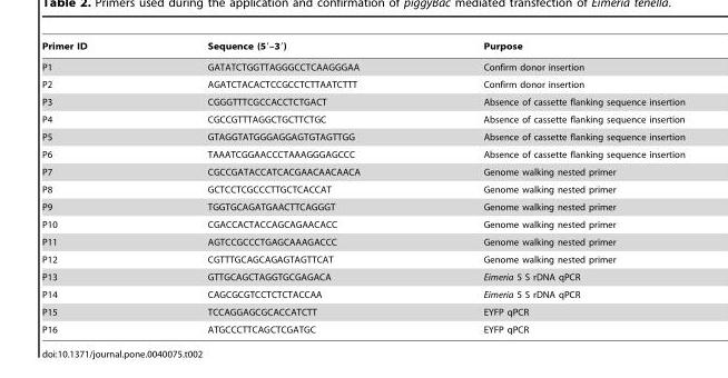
<table><thead><tr><td>Primer ID</td><td>Sequence (5′–3′)</td><td>Purpose</td></tr></thead><tbody><tr><td>P1</td><td>GATATCTGGTTAGGGCCTCAAGGGAA</td><td>Confirm donor insertion</td></tr><tr><td>P2</td><td>AGATCTACACTCCGCCTCTTAATCTTT</td><td>Confirm donor insertion</td></tr><tr><td>P3</td><td>CGGGTTTCGCCACCTCTGACT</td><td>Absence of cassette flanking sequence insertion</td></tr><tr><td>P4</td><td>CGCCGTTTAGGCTGCTTCTGC</td><td>Absence of cassette flanking sequence insertion</td></tr><tr><td>P5</td><td>GTAGGTATGGGAGGAGTGTAGTTGG</td><td>Absence of cassette flanking sequence insertion</td></tr><tr><td>P6</td><td>TAAATCGGAACCCTAAAGGGAGCCC</td><td>Absence of cassette flanking sequence insertion</td></tr><tr><td>P7</td><td>CGCCGATACCATCACGAACAACAACA</td><td>Genome walking nested primer</td></tr><tr><td>P8</td><td>GCTCCTCGCCCTTGCTCACCAT</td><td>Genome walking nested primer</td></tr><tr><td>P9</td><td>TGGTGCAGATGAACTTCAGGGT</td><td>Genome walking nested primer</td></tr><tr><td>P10</td><td>CGACCACTACCAGCAGAACACC</td><td>Genome walking nested primer</td></tr><tr><td>P11</td><td>AGTCCGCCCTGAGCAAAGACCC</td><td>Genome walking nested primer</td></tr><tr><td>P12</td><td>CGTTTGCAGCAGAGTAGTTCAT</td><td>Genome walking nested primer</td></tr><tr><td>P13</td><td>GTTGCAGCTAGGTGCGAGACA</td><td>Eimeria 5 S rDNA qPCR</td></tr><tr><td>P14</td><td>CAGCGCGTCCTCTCTACCAA</td><td>Eimeria 5 S rDNA qPCR</td></tr><tr><td>P15</td><td>TCCAGGAGCGCACCATCTT</td><td>EYFP qPCR</td></tr><tr><td>P16</td><td>ATGCCCTTCAGCTCGATGC</td><td>EYFP qPCR</td></tr></tbody></table>